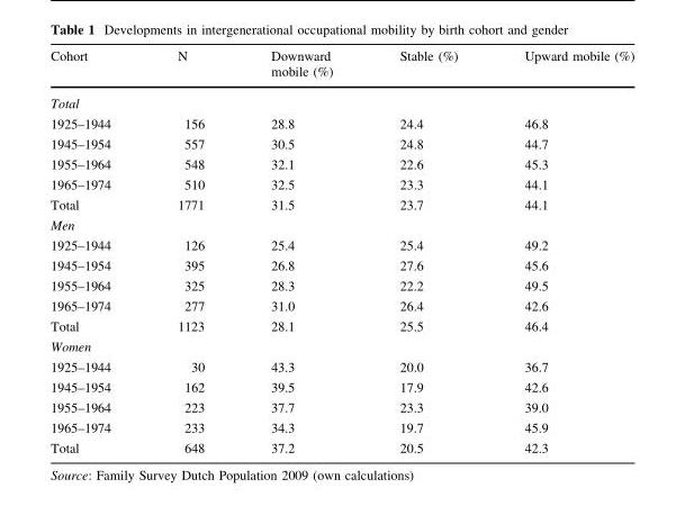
<table><thead><tr><td>Cohort</td><td>N</td><td>Downward mobile (%)</td><td>Stable (%)</td><td>Upward mobile (%)</td></tr></thead><tbody><tr><td colspan="5">Total</td></tr><tr><td>1925–1944</td><td>156</td><td>28.8</td><td>24.4</td><td>46.8</td></tr><tr><td>1945–1954</td><td>557</td><td>30.5</td><td>24.8</td><td>44.7</td></tr><tr><td>1955–1964</td><td>548</td><td>32.1</td><td>22.6</td><td>45.3</td></tr><tr><td>1965–1974</td><td>510</td><td>32.5</td><td>23.3</td><td>44.1</td></tr><tr><td>Total</td><td>1771</td><td>31.5</td><td>23.7</td><td>44.1</td></tr><tr><td colspan="5">Men</td></tr><tr><td>1925–1944</td><td>126</td><td>25.4</td><td>25.4</td><td>49.2</td></tr><tr><td>1945–1954</td><td>395</td><td>26.8</td><td>27.6</td><td>45.6</td></tr><tr><td>1955–1964</td><td>325</td><td>28.3</td><td>22.2</td><td>49.5</td></tr><tr><td>1965–1974</td><td>277</td><td>31.0</td><td>26.4</td><td>42.6</td></tr><tr><td>Total</td><td>1123</td><td>28.1</td><td>25.5</td><td>46.4</td></tr><tr><td colspan="5">Women</td></tr><tr><td>1925–1944</td><td>30</td><td>43.3</td><td>20.0</td><td>36.7</td></tr><tr><td>1945–1954</td><td>162</td><td>39.5</td><td>17.9</td><td>42.6</td></tr><tr><td>1955–1964</td><td>223</td><td>37.7</td><td>23.3</td><td>39.0</td></tr><tr><td>1965–1974</td><td>233</td><td>34.3</td><td>19.7</td><td>45.9</td></tr><tr><td>Total</td><td>648</td><td>37.2</td><td>20.5</td><td>42.3</td></tr></tbody></table>